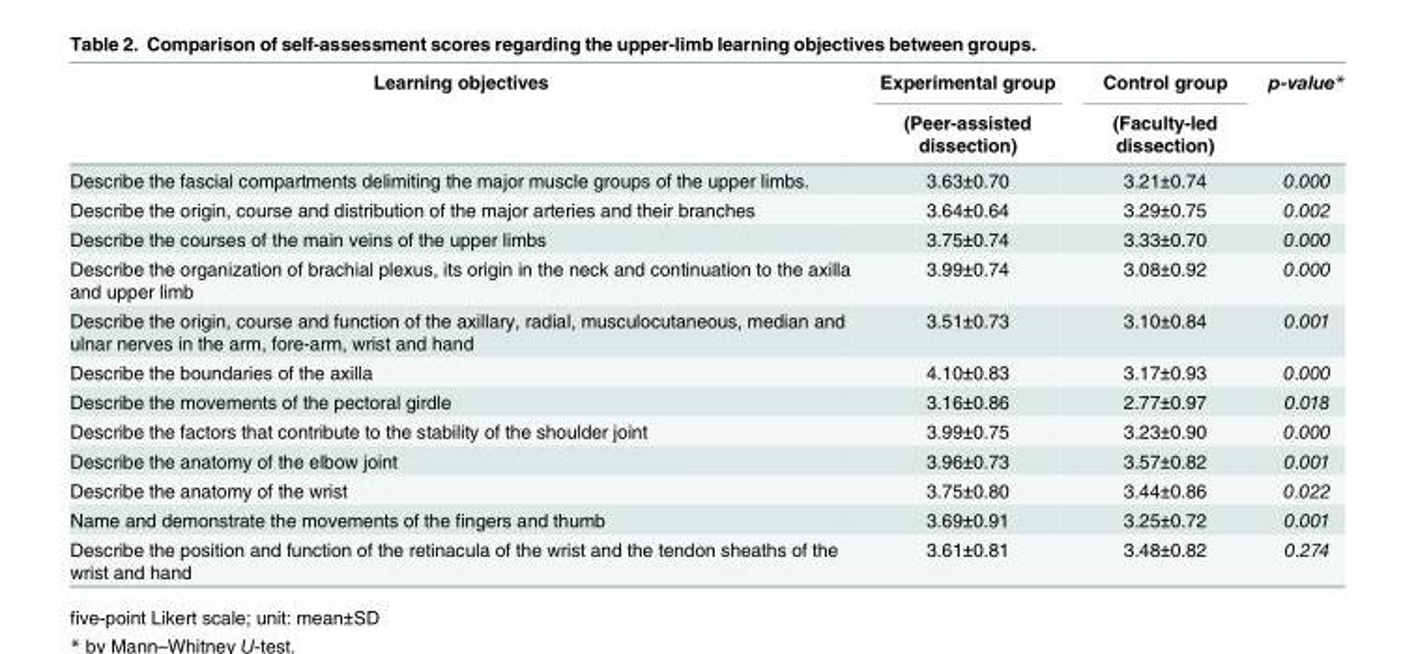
<table><thead><tr><td rowspan="2">Learning objectives</td><td rowspan="2">Experimental group (Peer-assisted dissection)</td><td rowspan="2">Control group (Faculty-led dissection)</td><td rowspan="2">p-value*</td></tr><tr></tr></thead><tbody><tr><td>Describe the fascial compartments delimiting the major muscle groups of the upper limbs.</td><td>3.63±0.70</td><td>3.21±0.74</td><td>0.000</td></tr><tr><td>Describe the origin, course and distribution of the major arteries and their branches</td><td>3.64±0.64</td><td>3.29±0.75</td><td>0.002</td></tr><tr><td>Describe the courses of the main veins of the upper limbs</td><td>3.75±0.74</td><td>3.33±0.70</td><td>0.000</td></tr><tr><td>Describe the organization of brachial plexus, its origin in the neck and continuation to the axilla and upper limb</td><td>3.99±0.74</td><td>3.08±0.92</td><td>0.000</td></tr><tr><td>Describe the origin, course and function of the axillary, radial, musculocutaneous, median and ulnar nerves in the arm, fore-arm, wrist and hand</td><td>3.51±0.73</td><td>3.10±0.84</td><td>0.001</td></tr><tr><td>Describe the boundaries of the axilla</td><td>4.10±0.83</td><td>3.17±0.93</td><td>0.000</td></tr><tr><td>Describe the movements of the pectoral girdle</td><td>3.16±0.86</td><td>2.77±0.97</td><td>0.018</td></tr><tr><td>Describe the factors that contribute to the stability of the shoulder joint</td><td>3.99±0.75</td><td>3.23±0.90</td><td>0.000</td></tr><tr><td>Describe the anatomy of the elbow joint</td><td>3.96±0.73</td><td>3.57±0.82</td><td>0.001</td></tr><tr><td>Describe the anatomy of the wrist</td><td>3.75±0.80</td><td>3.44±0.86</td><td>0.022</td></tr><tr><td>Name and demonstrate the movements of the fingers and thumb</td><td>3.69±0.91</td><td>3.25±0.72</td><td>0.001</td></tr><tr><td>Describe the position and function of the retinacula of the wrist and the tendon sheaths of the wrist and hand</td><td>3.61±0.81</td><td>3.48±0.82</td><td>0.274</td></tr></tbody></table>